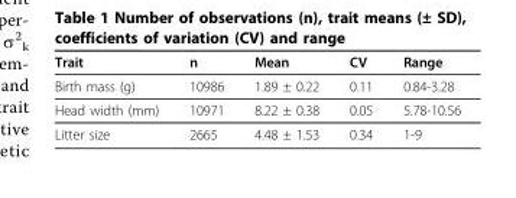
<table><thead><tr><td>Trait</td><td>n</td><td>Mean</td><td>CV</td><td>Range</td></tr></thead><tbody><tr><td>Birth mass (g)</td><td>10986</td><td>1.89 ± 0.22</td><td>0.11</td><td>0.84-3.28</td></tr><tr><td>Head width (mm)</td><td>10971</td><td>8.22 ± 0.38</td><td>0.05</td><td>5.78-10.56</td></tr><tr><td>Litter size</td><td>2665</td><td>4.48 ± 1.53</td><td>0.34</td><td>1-9</td></tr></tbody></table>